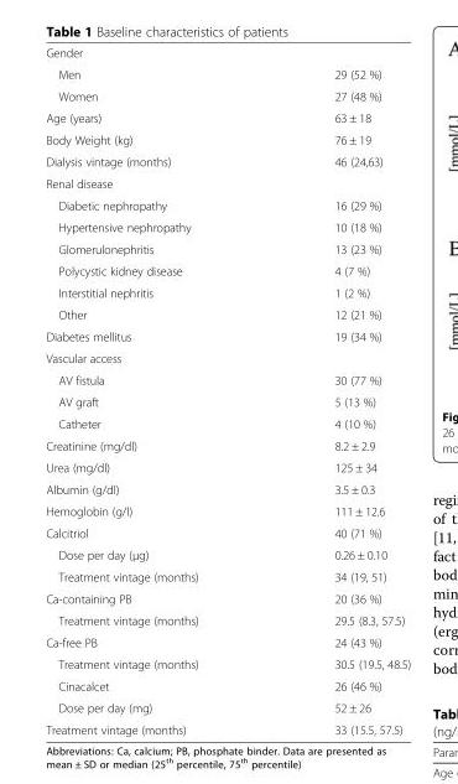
<table><tbody><tr><td colspan="2">Gender</td></tr><tr><td>Men</td><td>29 (52 %)</td></tr><tr><td>Women</td><td>27 (48 %)</td></tr><tr><td>Age (years)</td><td>63 ± 18</td></tr><tr><td>Body Weight (kg)</td><td>76 ± 19</td></tr><tr><td>Dialysis vintage (months)</td><td>46 (24,63)</td></tr><tr><td colspan="2">Renal disease</td></tr><tr><td>Diabetic nephropathy</td><td>16 (29 %)</td></tr><tr><td>Hypertensive nephropathy</td><td>10 (18 %)</td></tr><tr><td>Glomerulonephritis</td><td>13 (23 %)</td></tr><tr><td>Polycystic kidney disease</td><td>4 (7 %)</td></tr><tr><td>Interstitial nephritis</td><td>1 (2 %)</td></tr><tr><td>Other</td><td>12 (21 %)</td></tr><tr><td>Diabetes mellitus</td><td>19 (34 %)</td></tr><tr><td colspan="2">Vascular access</td></tr><tr><td>AV fistula</td><td>30 (77 %)</td></tr><tr><td>AV graft</td><td>5 (13 %)</td></tr><tr><td>Catheter</td><td>4 (10 %)</td></tr><tr><td>Creatinine (mg/dl)</td><td>8.2 ± 2.9</td></tr><tr><td>Urea (mg/dl)</td><td>125 ± 34</td></tr><tr><td>Albumin (g/dl)</td><td>3.5 ± 0.3</td></tr><tr><td>Hemoglobin (g/l)</td><td>111 ± 12.6</td></tr><tr><td>Calcitriol</td><td>40 (71 %)</td></tr><tr><td>Dose per day (μg)</td><td>0.26 ± 0.10</td></tr><tr><td>Treatment vintage (months)</td><td>34 (19, 51)</td></tr><tr><td>Ca-containing PB</td><td>20 (36 %)</td></tr><tr><td>Treatment vintage (months)</td><td>29.5 (8.3, 57.5)</td></tr><tr><td>Ca-free PB</td><td>24 (43 %)</td></tr><tr><td>Treatment vintage (months)</td><td>30.5 (19.5, 48.5)</td></tr><tr><td>Cinacalcet</td><td>26 (46 %)</td></tr><tr><td>Dose per day (mg)</td><td>52 ± 26</td></tr><tr><td>Treatment vintage (months)</td><td>33 (15.5, 57.5)</td></tr></tbody></table>